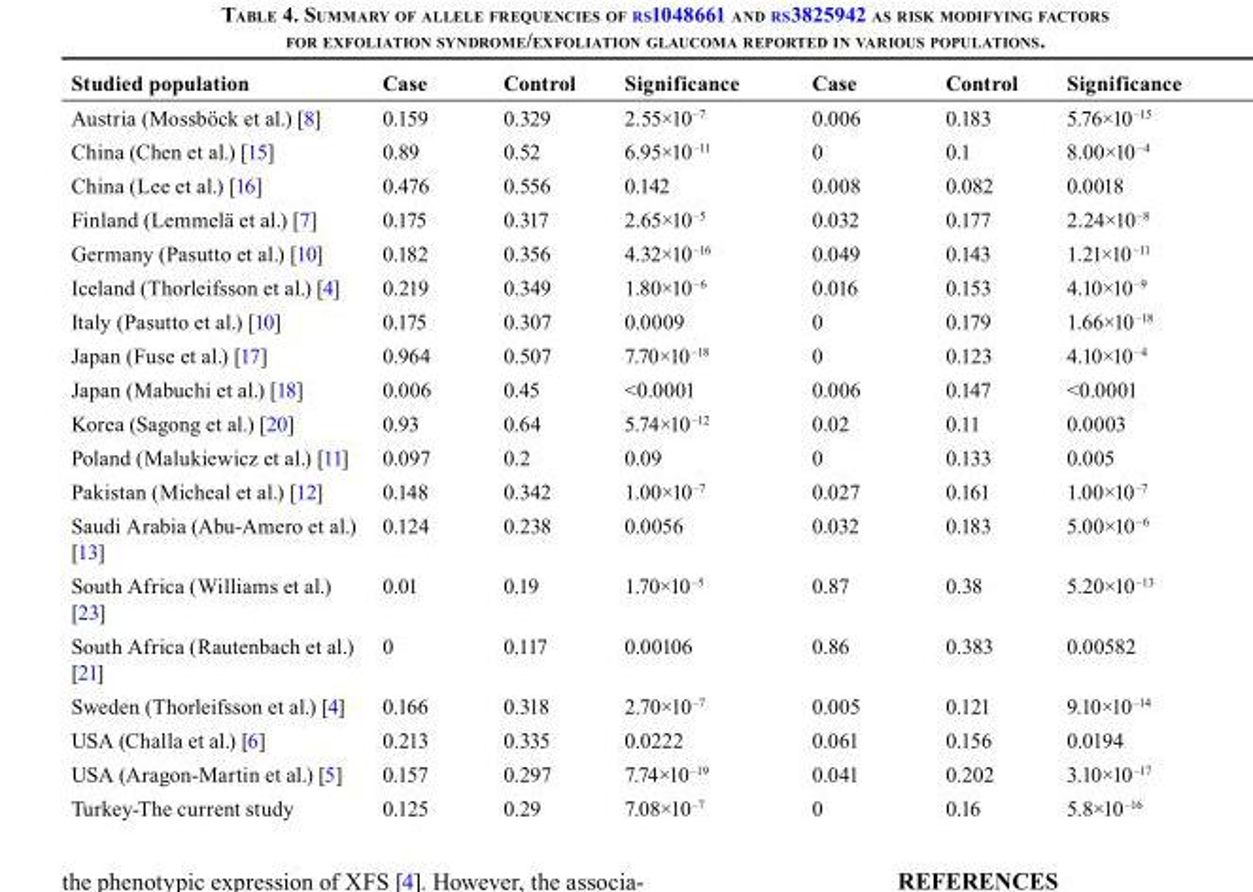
<table><thead><tr><td>Studied population</td><td>Case</td><td>Control</td><td>Significance</td><td>Case</td><td>Control</td><td>Significance</td></tr></thead><tbody><tr><td>Austria (Mossböck et al.) [8]</td><td>0.159</td><td>0.329</td><td>2.55×10<sup>–7</sup></td><td>0.006</td><td>0.183</td><td>5.76×10<sup>–15</sup></td></tr><tr><td>China (Chen et al.) [15]</td><td>0.89</td><td>0.52</td><td>6.95×10<sup>–11</sup></td><td>0</td><td>0.1</td><td>8.00×10<sup>–4</sup></td></tr><tr><td>China (Lee et al.) [16]</td><td>0.476</td><td>0.556</td><td>0.142</td><td>0.008</td><td>0.082</td><td>0.0018</td></tr><tr><td>Finland (Lemmelä et al.) [7]</td><td>0.175</td><td>0.317</td><td>2.65×10<sup>–5</sup></td><td>0.032</td><td>0.177</td><td>2.24×10<sup>–8</sup></td></tr><tr><td>Germany (Pasutto et al.) [10]</td><td>0.182</td><td>0.356</td><td>4.32×10<sup>–16</sup></td><td>0.049</td><td>0.143</td><td>1.21×10<sup>–11</sup></td></tr><tr><td>Iceland (Thorleifsson et al.) [4]</td><td>0.219</td><td>0.349</td><td>1.80×10<sup>–6</sup></td><td>0.016</td><td>0.153</td><td>4.10×10<sup>–9</sup></td></tr><tr><td>Italy (Pasutto et al.) [10]</td><td>0.175</td><td>0.307</td><td>0.0009</td><td>0</td><td>0.179</td><td>1.66×10<sup>–18</sup></td></tr><tr><td>Japan (Fuse et al.) [17]</td><td>0.964</td><td>0.507</td><td>7.70×10<sup>–18</sup></td><td>0</td><td>0.123</td><td>4.10×10<sup>–4</sup></td></tr><tr><td>Japan (Mabuchi et al.) [18]</td><td>0.006</td><td>0.45</td><td>&lt;0.0001</td><td>0.006</td><td>0.147</td><td>&lt;0.0001</td></tr><tr><td>Korea (Sagong et al.) [20]</td><td>0.93</td><td>0.64</td><td>5.74×10<sup>–12</sup></td><td>0.02</td><td>0.11</td><td>0.0003</td></tr><tr><td>Poland (Malukiewicz et al.) [11]</td><td>0.097</td><td>0.2</td><td>0.09</td><td>0</td><td>0.133</td><td>0.005</td></tr><tr><td>Pakistan (Micheal et al.) [12]</td><td>0.148</td><td>0.342</td><td>1.00×10<sup>–7</sup></td><td>0.027</td><td>0.161</td><td>1.00×10<sup>–7</sup></td></tr><tr><td>Saudi Arabia (Abu-Amero et al.) [13]</td><td>0.124</td><td>0.238</td><td>0.0056</td><td>0.032</td><td>0.183</td><td>5.00×10<sup>–6</sup></td></tr><tr><td>South Africa (Williams et al.) [23]</td><td>0.01</td><td>0.19</td><td>1.70×10<sup>–5</sup></td><td>0.87</td><td>0.38</td><td>5.20×10<sup>–13</sup></td></tr><tr><td>South Africa (Rautenbach et al.) [21]</td><td>0</td><td>0.117</td><td>0.00106</td><td>0.86</td><td>0.383</td><td>0.00582</td></tr><tr><td>Sweden (Thorleifsson et al.) [4]</td><td>0.166</td><td>0.318</td><td>2.70×10<sup>–7</sup></td><td>0.005</td><td>0.121</td><td>9.10×10<sup>–14</sup></td></tr><tr><td>USA (Challa et al.) [6]</td><td>0.213</td><td>0.335</td><td>0.0222</td><td>0.061</td><td>0.156</td><td>0.0194</td></tr><tr><td>USA (Aragon-Martin et al.) [5]</td><td>0.157</td><td>0.297</td><td>7.74×10<sup>–19</sup></td><td>0.041</td><td>0.202</td><td>3.10×10<sup>–17</sup></td></tr><tr><td>Turkey-The current study</td><td>0.125</td><td>0.29</td><td>7.08×10<sup>–7</sup></td><td>0</td><td>0.16</td><td>5.8×10<sup>–16</sup></td></tr></tbody></table>